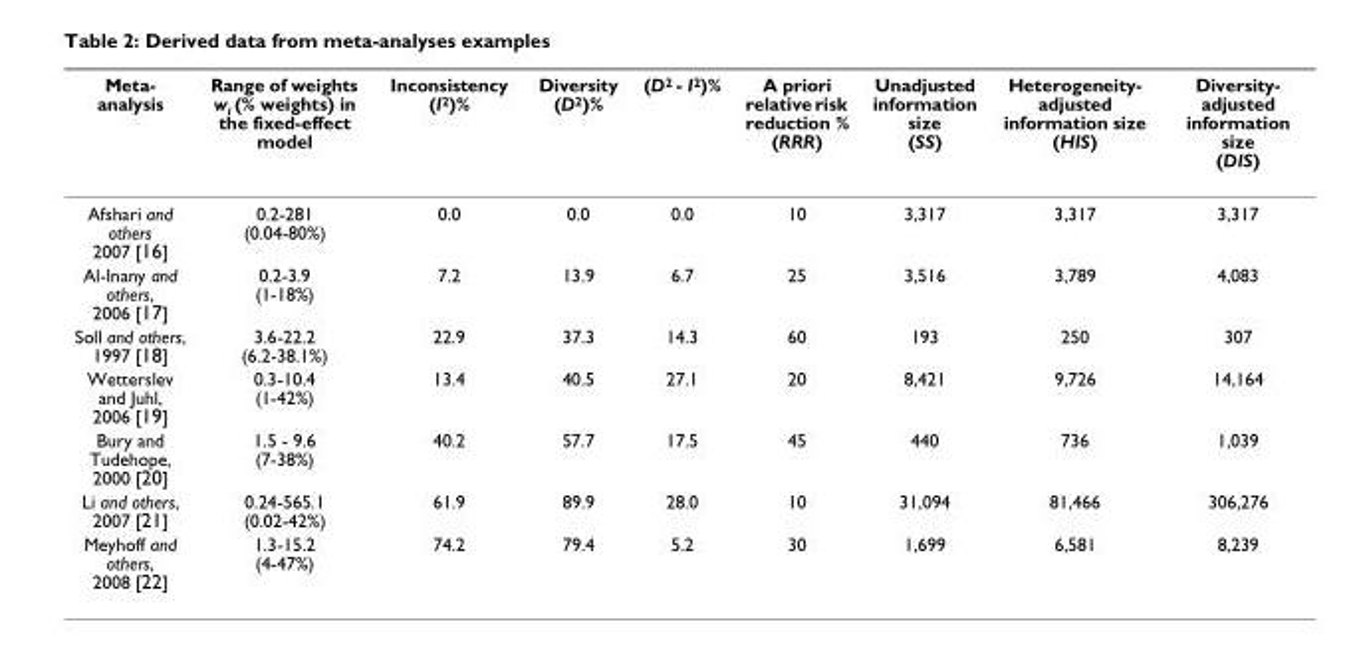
<table><thead><tr><td>Meta- analysis</td><td>Range of weights w<sub>i</sub> (% weights) in the fixed-effect model</td><td>Inconsistency (I<sup>2</sup>)%</td><td>Diversity (D<sup>2</sup>)%</td><td>(D<sup>2</sup> - I<sup>2</sup>)%</td><td>A priori relative risk reduction % (RRR)</td><td>Unadjusted information size (SS)</td><td>Heterogeneity- adjusted information size (HIS)</td><td>Diversity- adjusted information size (DIS)</td></tr></thead><tbody><tr><td>Afshari and others 2007 [16]</td><td>0.2-281 (0.04-80%)</td><td>0.0</td><td>0.0</td><td>0.0</td><td>10</td><td>3,317</td><td>3,317</td><td>3,317</td></tr><tr><td>Al-Inany and others, 2006 [17]</td><td>0.2-3.9 (1-18%)</td><td>7.2</td><td>13.9</td><td>6.7</td><td>25</td><td>3,516</td><td>3,789</td><td>4,083</td></tr><tr><td>Soll and others, 1997 [18]</td><td>3.6-22.2 (6.2-38.1%)</td><td>22.9</td><td>37.3</td><td>14.3</td><td>60</td><td>193</td><td>250</td><td>307</td></tr><tr><td>Wetterslev and Juhl, 2006 [19]</td><td>0.3-10.4 (1-42%)</td><td>13.4</td><td>40.5</td><td>27.1</td><td>20</td><td>8,421</td><td>9,726</td><td>14,164</td></tr><tr><td>Bury and Tudehope, 2000 [20]</td><td>1.5 - 9.6 (7-38%)</td><td>40.2</td><td>57.7</td><td>17.5</td><td>45</td><td>440</td><td>736</td><td>1,039</td></tr><tr><td>Li and others, 2007 [21]</td><td>0.24-565.1 (0.02-42%)</td><td>61.9</td><td>89.9</td><td>28.0</td><td>10</td><td>31,094</td><td>81,466</td><td>306,276</td></tr><tr><td>Meyhoff and others, 2008 [22]</td><td>1.3-15.2 (4-47%)</td><td>74.2</td><td>79.4</td><td>5.2</td><td>30</td><td>1,699</td><td>6,581</td><td>8,239</td></tr></tbody></table>